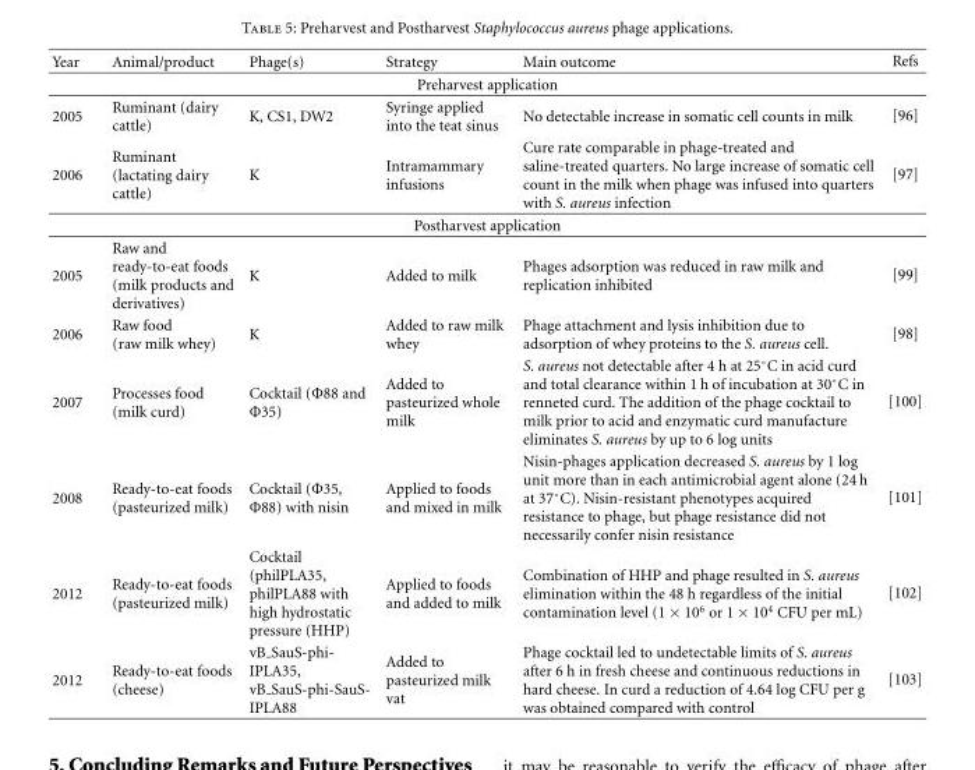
<table><thead><tr><td>Year</td><td>Animal/product</td><td>Phage(s)</td><td>Strategy</td><td>Main outcome</td><td>Refs</td></tr></thead><tbody><tr><td colspan="6">Preharvest application</td></tr><tr><td>2005</td><td>Ruminant (dairy cattle)</td><td>K, CS1, DW2</td><td>Syringe applied into the teat sinus</td><td>No detectable increase in somatic cell counts in milk</td><td>[96]</td></tr><tr><td>2006</td><td>Ruminant (lactating dairy cattle)</td><td>K</td><td>Intramammary infusions</td><td>Cure rate comparable in phage-treated and saline-treated quarters. No large increase of somatic cell count in the milk when phage was infused into quarters with S. aureus infection</td><td>[97]</td></tr><tr><td colspan="6">Postharvest application</td></tr><tr><td>2005</td><td>Raw and ready-to-eat foods (milk products and derivatives)</td><td>K</td><td>Added to milk</td><td>Phages adsorption was reduced in raw milk and replication inhibited</td><td>[99]</td></tr><tr><td>2006</td><td>Raw food (raw milk whey)</td><td>K</td><td>Added to raw milk whey</td><td>Phage attachment and lysis inhibition due to adsorption of whey proteins to the S. aureus cell.</td><td>[98]</td></tr><tr><td>2007</td><td>Processes food (milk curd)</td><td>Cocktail (Φ88 and Φ35)</td><td>Added to pasteurized whole milk</td><td>S. aureus not detectable after 4 h at 25◦C in acid curd and total clearance within 1 h of incubation at 30◦C in renneted curd. The addition of the phage cocktail to milk prior to acid and enzymatic curd manufacture eliminates S. aureus by up to 6 log units</td><td>[100]</td></tr><tr><td>2008</td><td>Ready-to-eat foods (pasteurized milk)</td><td>Cocktail (Φ35, Φ88) with nisin</td><td>Applied to foods and mixed in milk</td><td>Nisin-phages application decreased S. aureus by 1 log unit more than in each antimicrobial agent alone (24 h at 37◦C). Nisin-resistant phenotypes acquired resistance to phage, but phage resistance did not necessarily confer nisin resistance</td><td>[101]</td></tr><tr><td>2012</td><td>Ready-to-eat foods (pasteurized milk)</td><td>Cocktail (philPLA35, philPLA88 with high hydrostatic pressure (HHP)</td><td>Applied to foods and added to milk</td><td>Combination of HHP and phage resulted in S. aureus elimination within the 48 h regardless of the initial contamination level (1 × 10<sup>6</sup> or 1 × 10<sup>4</sup> CFU per mL)</td><td>[102]</td></tr><tr><td>2012</td><td>Ready-to-eat foods (cheese)</td><td>vB <sub>SauS-phi- IPLA35, vB</sub> SauS-phi-SauS- IPLA88</td><td>Added to pasteurized milk vat</td><td>Phage cocktail led to undetectable limits of S. aureus after 6 h in fresh cheese and continuous reductions in hard cheese. In curd a reduction of 4.64 log CFU per g was obtained compared with control</td><td>[103]</td></tr></tbody></table>